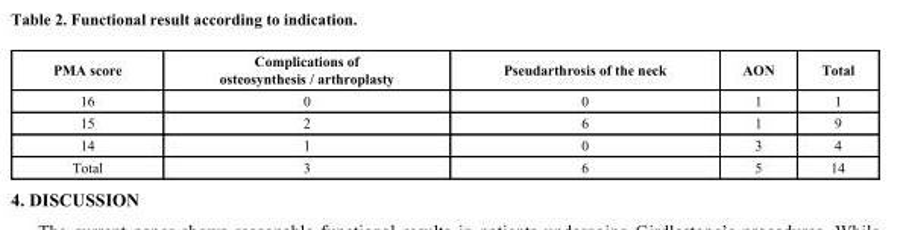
<table><thead><tr><td>PMA score</td><td>Complications of osteosynthesis / arthroplasty</td><td>Pseudarthrosis of the neck</td><td>AON</td><td>Total</td></tr></thead><tbody><tr><td>16</td><td>0</td><td>0</td><td>1</td><td>1</td></tr><tr><td>15</td><td>2</td><td>6</td><td>1</td><td>9</td></tr><tr><td>14</td><td>1</td><td>0</td><td>3</td><td>4</td></tr><tr><td>Total</td><td>3</td><td>6</td><td>5</td><td>14</td></tr></tbody></table>